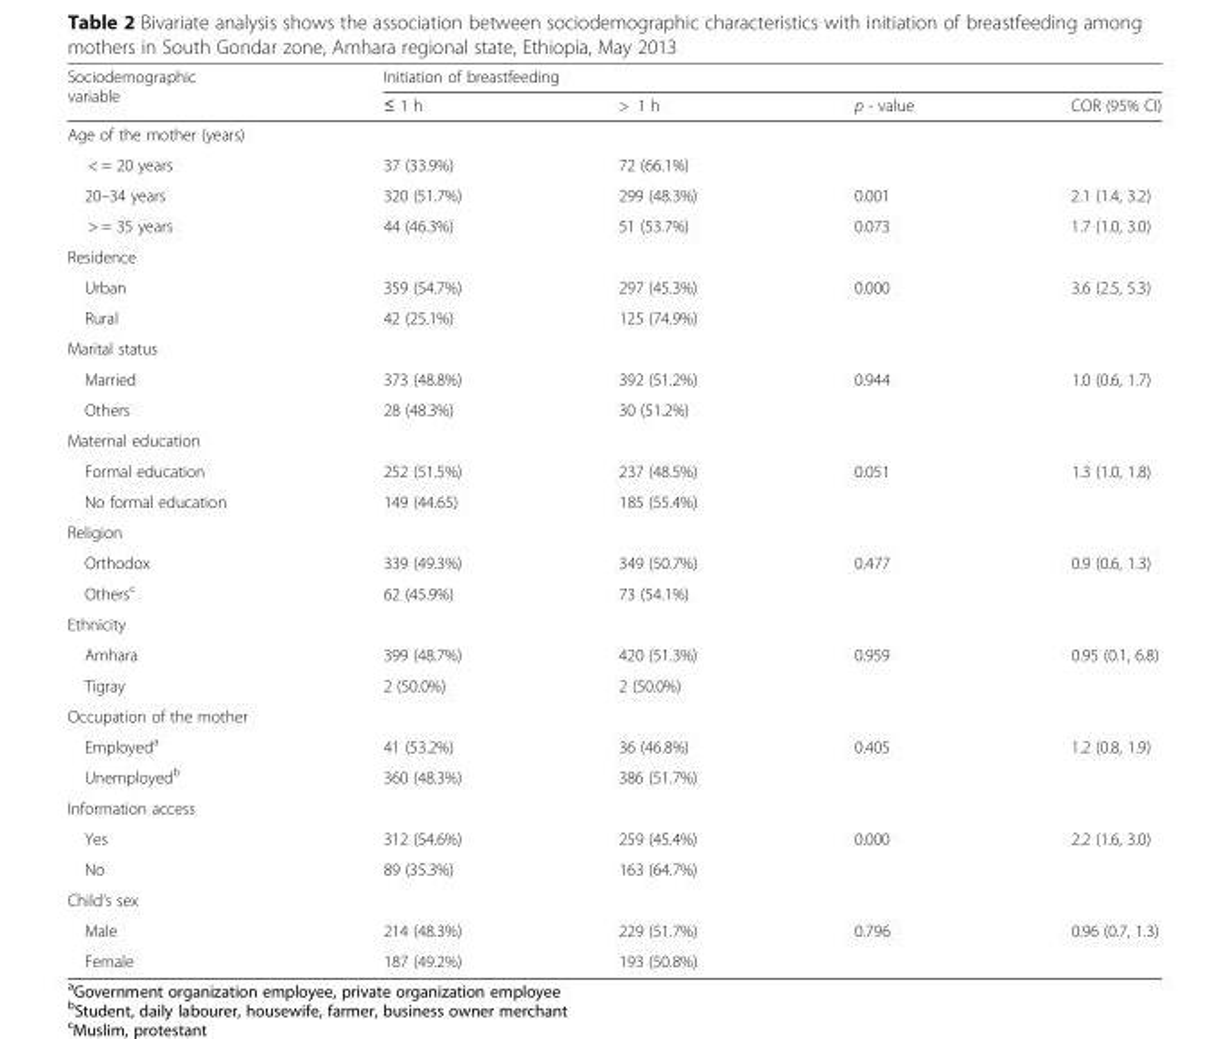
<table><thead><tr><td rowspan="2">Sociodemographic variable</td><td colspan="4">Initiation of breastfeeding</td></tr><tr><td>≤ 1 h</td><td>&gt; 1 h</td><td>p - value</td><td>COR (95% CI)</td></tr></thead><tbody><tr><td colspan="5">Age of the mother (years)</td></tr><tr><td>&lt; = 20 years</td><td>37 (33.9%)</td><td>72 (66.1%)</td><td></td><td></td></tr><tr><td>20–34 years</td><td>320 (51.7%)</td><td>299 (48.3%)</td><td>0.001</td><td>2.1 (1.4, 3.2)</td></tr><tr><td>&gt; = 35 years</td><td>44 (46.3%)</td><td>51 (53.7%)</td><td>0.073</td><td>1.7 (1.0, 3.0)</td></tr><tr><td colspan="5">Residence</td></tr><tr><td>Urban</td><td>359 (54.7%)</td><td>297 (45.3%)</td><td>0.000</td><td>3.6 (2.5, 5.3)</td></tr><tr><td>Rural</td><td>42 (25.1%)</td><td>125 (74.9%)</td><td></td><td></td></tr><tr><td colspan="5">Marital status</td></tr><tr><td>Married</td><td>373 (48.8%)</td><td>392 (51.2%)</td><td>0.944</td><td>1.0 (0.6, 1.7)</td></tr><tr><td>Others</td><td>28 (48.3%)</td><td>30 (51.2%)</td><td></td><td></td></tr><tr><td colspan="5">Maternal education</td></tr><tr><td>Formal education</td><td>252 (51.5%)</td><td>237 (48.5%)</td><td>0.051</td><td>1.3 (1.0, 1.8)</td></tr><tr><td>No formal education</td><td>149 (44.65)</td><td>185 (55.4%)</td><td></td><td></td></tr><tr><td colspan="5">Religion</td></tr><tr><td>Orthodox</td><td>339 (49.3%)</td><td>349 (50.7%)</td><td>0.477</td><td>0.9 (0.6, 1.3)</td></tr><tr><td>Others<sup>c</sup></td><td>62 (45.9%)</td><td>73 (54.1%)</td><td></td><td></td></tr><tr><td colspan="5">Ethnicity</td></tr><tr><td>Amhara</td><td>399 (48.7%)</td><td>420 (51.3%)</td><td>0.959</td><td>0.95 (0.1, 6.8)</td></tr><tr><td>Tigray</td><td>2 (50.0%)</td><td>2 (50.0%)</td><td></td><td></td></tr><tr><td colspan="5">Occupation of the mother</td></tr><tr><td>Employed<sup>a</sup></td><td>41 (53.2%)</td><td>36 (46.8%)</td><td>0.405</td><td>1.2 (0.8, 1.9)</td></tr><tr><td>Unemployed<sup>b</sup></td><td>360 (48.3%)</td><td>386 (51.7%)</td><td></td><td></td></tr><tr><td colspan="5">Information access</td></tr><tr><td>Yes</td><td>312 (54.6%)</td><td>259 (45.4%)</td><td>0.000</td><td>2.2 (1.6, 3.0)</td></tr><tr><td>No</td><td>89 (35.3%)</td><td>163 (64.7%)</td><td></td><td></td></tr><tr><td colspan="5">Child’s sex</td></tr><tr><td>Male</td><td>214 (48.3%)</td><td>229 (51.7%)</td><td>0.796</td><td>0.96 (0.7, 1.3)</td></tr><tr><td>Female</td><td>187 (49.2%)</td><td>193 (50.8%)</td><td></td><td></td></tr></tbody></table>